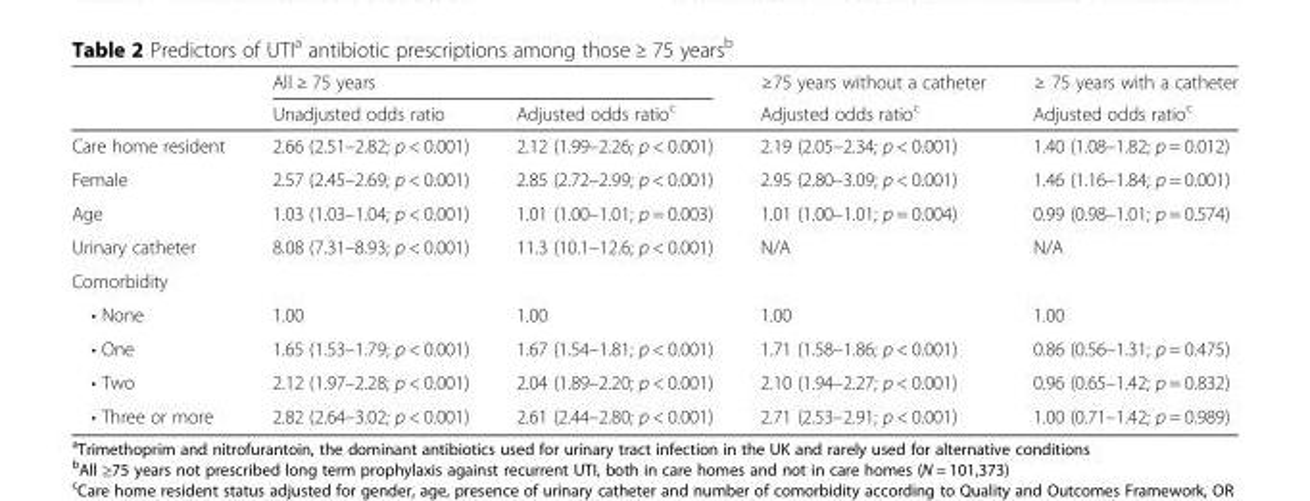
<table><thead><tr><td rowspan="2"></td><td colspan="2">All ≥ 75 years</td><td rowspan="2">≥75 years without a catheter Adjusted odds ratio<sup>c</sup></td><td rowspan="2">≥ 75 years with a catheter Adjusted odds ratio<sup>c</sup></td></tr><tr><td>Unadjusted odds ratio</td><td>Adjusted odds ratio<sup>c</sup></td></tr></thead><tbody><tr><td>Care home resident</td><td>2.66 (2.51–2.82; p &lt; 0.001)</td><td>2.12 (1.99–2.26; p &lt; 0.001)</td><td>2.19 (2.05–2.34; p &lt; 0.001)</td><td>1.40 (1.08–1.82; p = 0.012)</td></tr><tr><td>Female</td><td>2.57 (2.45–2.69; p &lt; 0.001)</td><td>2.85 (2.72–2.99; p &lt; 0.001)</td><td>2.95 (2.80–3.09; p &lt; 0.001)</td><td>1.46 (1.16–1.84; p = 0.001)</td></tr><tr><td>Age</td><td>1.03 (1.03–1.04; p &lt; 0.001)</td><td>1.01 (1.00–1.01; p = 0.003)</td><td>1.01 (1.00–1.01; p = 0.004)</td><td>0.99 (0.98–1.01; p = 0.574)</td></tr><tr><td>Urinary catheter</td><td>8.08 (7.31–8.93; p &lt; 0.001)</td><td>11.3 (10.1–12.6; p &lt; 0.001)</td><td>N/A</td><td>N/A</td></tr><tr><td colspan="5">Comorbidity</td></tr><tr><td>• None</td><td>1.00</td><td>1.00</td><td>1.00</td><td>1.00</td></tr><tr><td>• One</td><td>1.65 (1.53–1.79; p &lt; 0.001)</td><td>1.67 (1.54–1.81; p &lt; 0.001)</td><td>1.71 (1.58–1.86; p &lt; 0.001)</td><td>0.86 (0.56–1.31; p = 0.475)</td></tr><tr><td>• Two</td><td>2.12 (1.97–2.28; p &lt; 0.001)</td><td>2.04 (1.89–2.20; p &lt; 0.001)</td><td>2.10 (1.94–2.27; p &lt; 0.001)</td><td>0.96 (0.65–1.42; p = 0.832)</td></tr><tr><td>• Three or more</td><td>2.82 (2.64–3.02; p &lt; 0.001)</td><td>2.61 (2.44–2.80; p &lt; 0.001)</td><td>2.71 (2.53–2.91; p &lt; 0.001)</td><td>1.00 (0.71–1.42; p = 0.989)</td></tr></tbody></table>